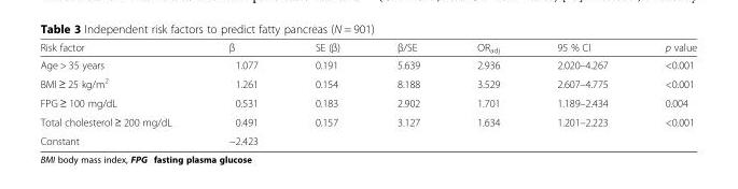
<table><thead><tr><td>Risk factor</td><td>β</td><td>SE (β)</td><td>β/SE</td><td>OR<sub>adj</sub></td><td>95 % CI</td><td>p value</td></tr></thead><tbody><tr><td>Age &gt; 35 years</td><td>1.077</td><td>0.191</td><td>5.639</td><td>2.936</td><td>2.020–4.267</td><td>&lt;0.001</td></tr><tr><td>BMI ≥ 25 kg/m<sup>2</sup></td><td>1.261</td><td>0.154</td><td>8.188</td><td>3.529</td><td>2.607–4.775</td><td>&lt;0.001</td></tr><tr><td>FPG ≥ 100 mg/dL</td><td>0.531</td><td>0.183</td><td>2.902</td><td>1.701</td><td>1.189–2.434</td><td>0.004</td></tr><tr><td>Total cholesterol ≥ 200 mg/dL</td><td>0.491</td><td>0.157</td><td>3.127</td><td>1.634</td><td>1.201–2.223</td><td>&lt;0.001</td></tr><tr><td>Constant</td><td>−2.423</td><td></td><td></td><td></td><td></td><td></td></tr></tbody></table>